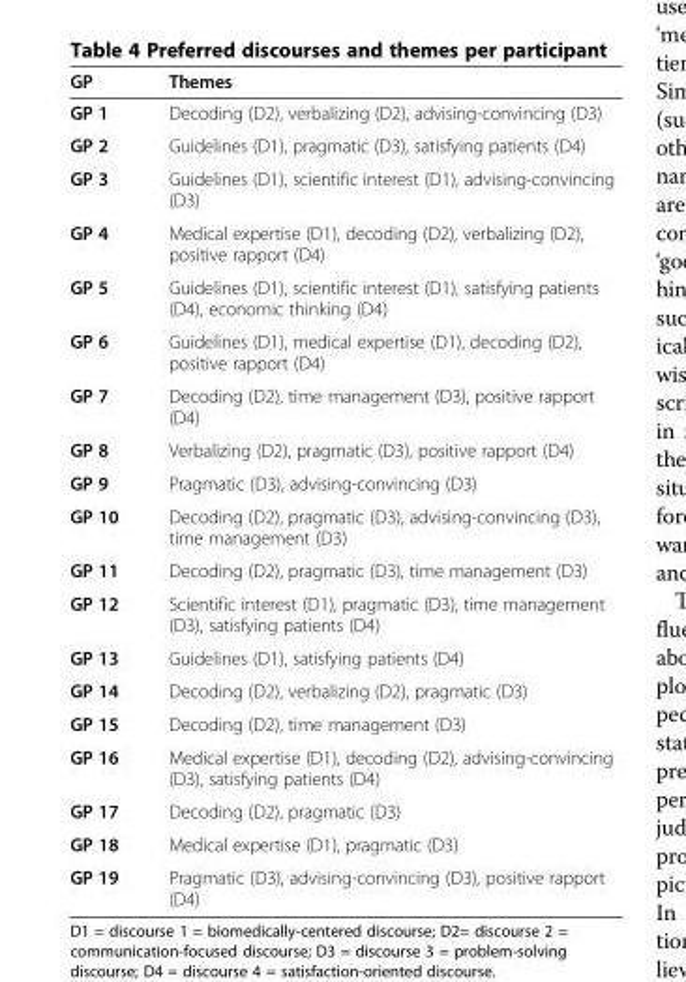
<table><thead><tr><td>GP</td><td>Themes</td></tr></thead><tbody><tr><td>GP 1</td><td>Decoding (D2), verbalizing (D2), advising-convincing (D3)</td></tr><tr><td>GP 2</td><td>Guidelines (D1), pragmatic (D3), satisfying patients (D4)</td></tr><tr><td>GP 3</td><td>Guidelines (D1), scientific interest (D1), advising-convincing (D3)</td></tr><tr><td>GP 4</td><td>Medical expertise (D1), decoding (D2), verbalizing (D2), positive rapport (D4)</td></tr><tr><td>GP 5</td><td>Guidelines (D1), scientific interest (D1), satisfying patients (D4), economic thinking (D4)</td></tr><tr><td>GP 6</td><td>Guidelines (D1), medical expertise (D1), decoding (D2), positive rapport (D4)</td></tr><tr><td>GP 7</td><td>Decoding (D2), time management (D3), positive rapport (D4)</td></tr><tr><td>GP 8</td><td>Verbalizing (D2), pragmatic (D3), positive rapport (D4)</td></tr><tr><td>GP 9</td><td>Pragmatic (D3), advising-convincing (D3)</td></tr><tr><td>GP 10</td><td>Decoding (D2), pragmatic (D3), advising-convincing (D3), time management (D3)</td></tr><tr><td>GP 11</td><td>Decoding (D2), pragmatic (D3), time management (D3)</td></tr><tr><td>GP 12</td><td>Scientific interest (D1), pragmatic (D3), time management (D3), satisfying patients (D4)</td></tr><tr><td>GP 13</td><td>Guidelines (D1), satisfying patients (D4)</td></tr><tr><td>GP 14</td><td>Decoding (D2), verbalizing (D2), pragmatic (D3)</td></tr><tr><td>GP 15</td><td>Decoding (D2), time management (D3)</td></tr><tr><td>GP 16</td><td>Medical expertise (D1), decoding (D2), advising-convincing (D3), satisfying patients (D4)</td></tr><tr><td>GP 17</td><td>Decoding (D2), pragmatic (D3)</td></tr><tr><td>GP 18</td><td>Medical expertise (D1), pragmatic (D3)</td></tr><tr><td>GP 19</td><td>Pragmatic (D3), advising-convincing (D3), positive rapport (D4)</td></tr></tbody></table>